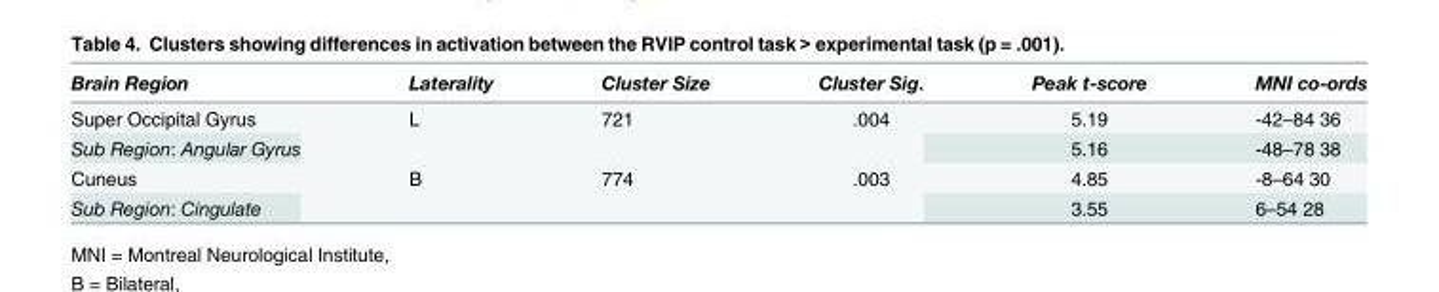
<table><thead><tr><td>Brain Region</td><td>Laterality</td><td>Cluster Size</td><td>Cluster Sig.</td><td>Peak t-score</td><td>MNI co-ords</td></tr></thead><tbody><tr><td>Super Occipital Gyrus</td><td rowspan="2">L</td><td rowspan="2">721</td><td rowspan="2">.004</td><td>5.19</td><td>-42–84 36</td></tr><tr><td>Sub Region: Angular Gyrus</td><td>5.16</td><td>-48–78 38</td></tr><tr><td>Cuneus</td><td rowspan="2">B</td><td rowspan="2">774</td><td rowspan="2">.003</td><td>4.85</td><td>-8–64 30</td></tr><tr><td>Sub Region: Cingulate</td><td>3.55</td><td>6–54 28</td></tr></tbody></table>